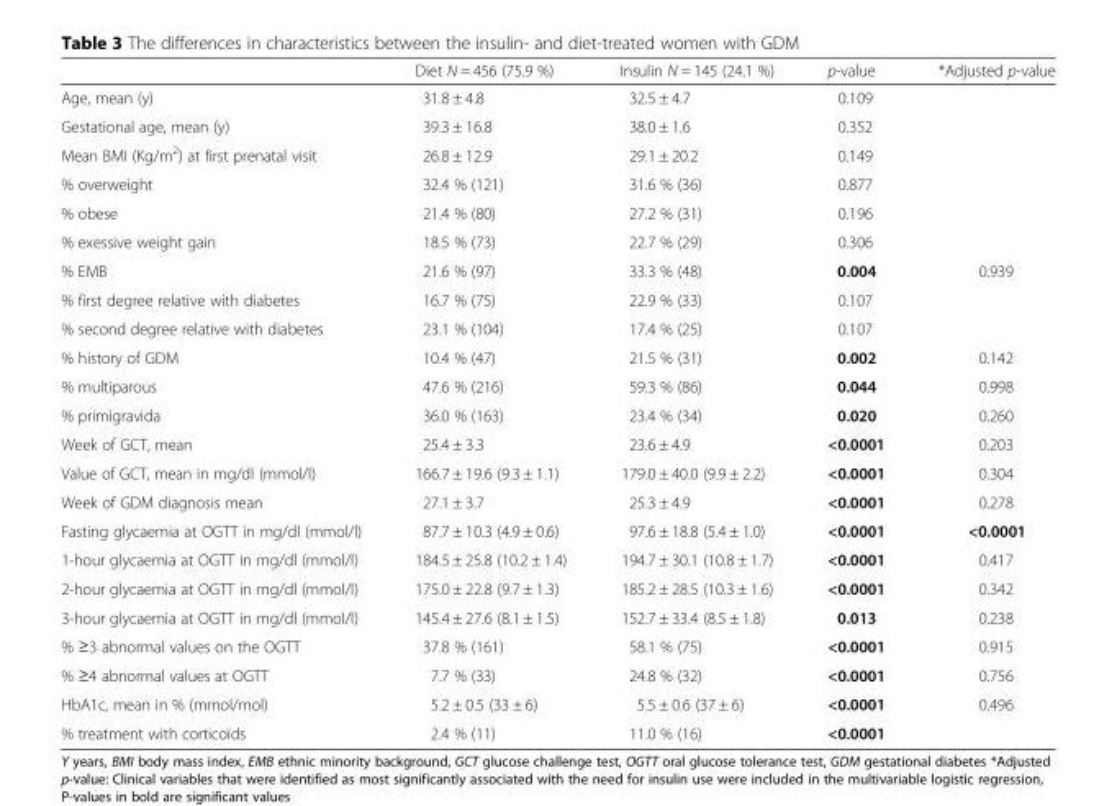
<table><thead><tr><td></td><td>Diet N = 456 (75.9 %)</td><td>Insulin N = 145 (24.1 %)</td><td>p-value</td><td>*Adjusted p-value</td></tr></thead><tbody><tr><td>Age, mean (y)</td><td>31.8 ± 4.8</td><td>32.5 ± 4.7</td><td>0.109</td><td></td></tr><tr><td>Gestational age, mean (y)</td><td>39.3 ± 16.8</td><td>38.0 ± 1.6</td><td>0.352</td><td></td></tr><tr><td>Mean BMI (Kg/m<sup>2</sup>) at first prenatal visit</td><td>26.8 ± 12.9</td><td>29.1 ± 20.2</td><td>0.149</td><td></td></tr><tr><td>% overweight</td><td>32.4 % (121)</td><td>31.6 % (36)</td><td>0.877</td><td></td></tr><tr><td>% obese</td><td>21.4 % (80)</td><td>27.2 % (31)</td><td>0.196</td><td></td></tr><tr><td>% exessive weight gain</td><td>18.5 % (73)</td><td>22.7 % (29)</td><td>0.306</td><td></td></tr><tr><td>% EMB</td><td>21.6 % (97)</td><td>33.3 % (48)</td><td>0.004</td><td>0.939</td></tr><tr><td>% first degree relative with diabetes</td><td>16.7 % (75)</td><td>22.9 % (33)</td><td>0.107</td><td></td></tr><tr><td>% second degree relative with diabetes</td><td>23.1 % (104)</td><td>17.4 % (25)</td><td>0.107</td><td></td></tr><tr><td>% history of GDM</td><td>10.4 % (47)</td><td>21.5 % (31)</td><td>0.002</td><td>0.142</td></tr><tr><td>% multiparous</td><td>47.6 % (216)</td><td>59.3 % (86)</td><td>0.044</td><td>0.998</td></tr><tr><td>% primigravida</td><td>36.0 % (163)</td><td>23.4 % (34)</td><td>0.020</td><td>0.260</td></tr><tr><td>Week of GCT, mean</td><td>25.4 ± 3.3</td><td>23.6 ± 4.9</td><td>&lt;0.0001</td><td>0.203</td></tr><tr><td>Value of GCT, mean in mg/dl (mmol/l)</td><td>166.7 ± 19.6 (9.3 ± 1.1)</td><td>179.0 ± 40.0 (9.9 ± 2.2)</td><td>&lt;0.0001</td><td>0.304</td></tr><tr><td>Week of GDM diagnosis mean</td><td>27.1 ± 3.7</td><td>25.3 ± 4.9</td><td>&lt;0.0001</td><td>0.278</td></tr><tr><td>Fasting glycaemia at OGTT in mg/dl (mmol/l)</td><td>87.7 ± 10.3 (4.9 ± 0.6)</td><td>97.6 ± 18.8 (5.4 ± 1.0)</td><td>&lt;0.0001</td><td>&lt;0.0001</td></tr><tr><td>1-hour glycaemia at OGTT in mg/dl (mmol/l)</td><td>184.5 ± 25.8 (10.2 ± 1.4)</td><td>194.7 ± 30.1 (10.8 ± 1.7)</td><td>&lt;0.0001</td><td>0.417</td></tr><tr><td>2-hour glycaemia at OGTT in mg/dl (mmol/l)</td><td>175.0 ± 22.8 (9.7 ± 1.3)</td><td>185.2 ± 28.5 (10.3 ± 1.6)</td><td>&lt;0.0001</td><td>0.342</td></tr><tr><td>3-hour glycaemia at OGTT in mg/dl (mmol/l)</td><td>145.4 ± 27.6 (8.1 ± 1.5)</td><td>152.7 ± 33.4 (8.5 ± 1.8)</td><td>0.013</td><td>0.238</td></tr><tr><td>% ≥3 abnormal values on the OGTT</td><td>37.8 % (161)</td><td>58.1 % (75)</td><td>&lt;0.0001</td><td>0.915</td></tr><tr><td>% ≥4 abnormal values at OGTT</td><td>7.7 % (33)</td><td>24.8 % (32)</td><td>&lt;0.0001</td><td>0.756</td></tr><tr><td>HbA1c, mean in % (mmol/mol)</td><td>5.2 ± 0.5 (33 ± 6)</td><td>5.5 ± 0.6 (37 ± 6)</td><td>&lt;0.0001</td><td>0.496</td></tr><tr><td>% treatment with corticoïds</td><td>2.4 % (11)</td><td>11.0 % (16)</td><td>&lt;0.0001</td><td></td></tr></tbody></table>